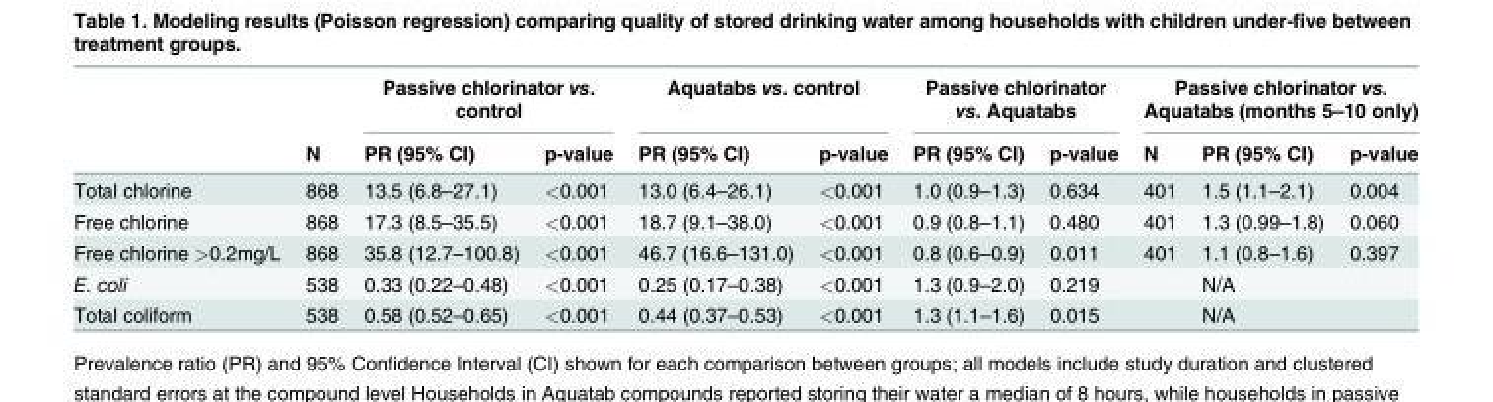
<table><thead><tr><td rowspan="2"></td><td rowspan="2">N</td><td colspan="2">Passive chlorinator vs. control</td><td colspan="2">Aquatabs vs. control</td><td colspan="2">Passive chlorinator vs. Aquatabs</td><td colspan="3">Passive chlorinator vs. Aquatabs (months 5–10 only)</td></tr><tr><td>PR (95% CI)</td><td>p-value</td><td>PR (95% CI)</td><td>p-value</td><td>PR (95% CI)</td><td>p-value</td><td>N</td><td>PR (95% CI)</td><td>p-value</td></tr></thead><tbody><tr><td>Total chlorine</td><td>868</td><td>13.5 (6.8–27.1)</td><td>&lt;0.001</td><td>13.0 (6.4–26.1)</td><td>&lt;0.001</td><td>1.0 (0.9–1.3)</td><td>0.634</td><td>401</td><td>1.5 (1.1–2.1)</td><td>0.004</td></tr><tr><td>Free chlorine</td><td>868</td><td>17.3 (8.5–35.5)</td><td>&lt;0.001</td><td>18.7 (9.1–38.0)</td><td>&lt;0.001</td><td>0.9 (0.8–1.1)</td><td>0.480</td><td>401</td><td>1.3 (0.99–1.8)</td><td>0.060</td></tr><tr><td>Free chlorine &gt;0.2mg/L</td><td>868</td><td>35.8 (12.7–100.8)</td><td>&lt;0.001</td><td>46.7 (16.6–131.0)</td><td>&lt;0.001</td><td>0.8 (0.6–0.9)</td><td>0.011</td><td>401</td><td>1.1 (0.8–1.6)</td><td>0.397</td></tr><tr><td>E. coli</td><td>538</td><td>0.33 (0.22–0.48)</td><td>&lt;0.001</td><td>0.25 (0.17–0.38)</td><td>&lt;0.001</td><td>1.3 (0.9–2.0)</td><td>0.219</td><td></td><td>N/A</td><td></td></tr><tr><td>Total coliform</td><td>538</td><td>0.58 (0.52–0.65)</td><td>&lt;0.001</td><td>0.44 (0.37–0.53)</td><td>&lt;0.001</td><td>1.3 (1.1–1.6)</td><td>0.015</td><td></td><td>N/A</td><td></td></tr></tbody></table>